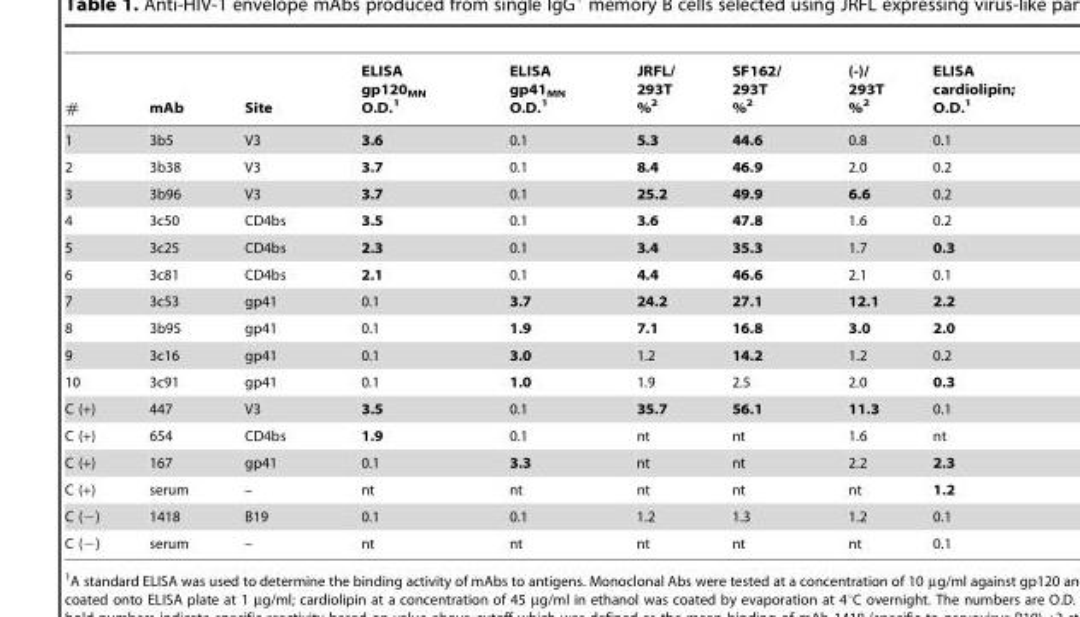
<table><thead><tr><td>#</td><td>mAb</td><td>Site</td><td>ELISA gp120<sub>MN</sub> O.D.<sup>1</sup></td><td>ELISA gp41<sub>MN</sub> O.D.<sup>1</sup></td><td>JRFL/ 293T %<sup>2</sup></td><td>SF162/ 293T %<sup>2</sup></td><td>(-)/ 293T %<sup>2</sup></td><td>ELISA cardiolipin; O.D.<sup>1</sup></td></tr></thead><tbody><tr><td>1</td><td>3b5</td><td>V3</td><td>3.6</td><td>0.1</td><td>5.3</td><td>44.6</td><td>0.8</td><td>0.1</td></tr><tr><td>2</td><td>3b38</td><td>V3</td><td>3.7</td><td>0.1</td><td>8.4</td><td>46.9</td><td>2.0</td><td>0.2</td></tr><tr><td>3</td><td>3b96</td><td>V3</td><td>3.7</td><td>0.1</td><td>25.2</td><td>49.9</td><td>6.6</td><td>0.2</td></tr><tr><td>4</td><td>3c50</td><td>CD4bs</td><td>3.5</td><td>0.1</td><td>3.6</td><td>47.8</td><td>1.6</td><td>0.2</td></tr><tr><td>5</td><td>3c25</td><td>CD4bs</td><td>2.3</td><td>0.1</td><td>3.4</td><td>35.3</td><td>1.7</td><td>0.3</td></tr><tr><td>6</td><td>3c81</td><td>CD4bs</td><td>2.1</td><td>0.1</td><td>4.4</td><td>46.6</td><td>2.1</td><td>0.1</td></tr><tr><td>7</td><td>3c53</td><td>gp41</td><td>0.1</td><td>3.7</td><td>24.2</td><td>27.1</td><td>12.1</td><td>2.2</td></tr><tr><td>8</td><td>3b95</td><td>gp41</td><td>0.1</td><td>1.9</td><td>7.1</td><td>16.8</td><td>3.0</td><td>2.0</td></tr><tr><td>9</td><td>3c16</td><td>gp41</td><td>0.1</td><td>3.0</td><td>1.2</td><td>14.2</td><td>1.2</td><td>0.2</td></tr><tr><td>10</td><td>3c91</td><td>gp41</td><td>0.1</td><td>1.0</td><td>1.9</td><td>2.5</td><td>2.0</td><td>0.3</td></tr><tr><td>C (+)</td><td>447</td><td>V3</td><td>3.5</td><td>0.1</td><td>35.7</td><td>56.1</td><td>11.3</td><td>0.1</td></tr><tr><td>C (+)</td><td>654</td><td>CD4bs</td><td>1.9</td><td>0.1</td><td>nt</td><td>nt</td><td>1.6</td><td>nt</td></tr><tr><td>C (+)</td><td>167</td><td>gp41</td><td>0.1</td><td>3.3</td><td>nt</td><td>nt</td><td>2.2</td><td>2.3</td></tr><tr><td>C (+)</td><td>serum</td><td>–</td><td>nt</td><td>nt</td><td>nt</td><td>nt</td><td>nt</td><td>1.2</td></tr><tr><td>C (−)</td><td>1418</td><td>B19</td><td>0.1</td><td>0.1</td><td>1.2</td><td>1.3</td><td>1.2</td><td>0.1</td></tr><tr><td>C (−)</td><td>serum</td><td>–</td><td>nt</td><td>nt</td><td>nt</td><td>nt</td><td>nt</td><td>0.1</td></tr></tbody></table>